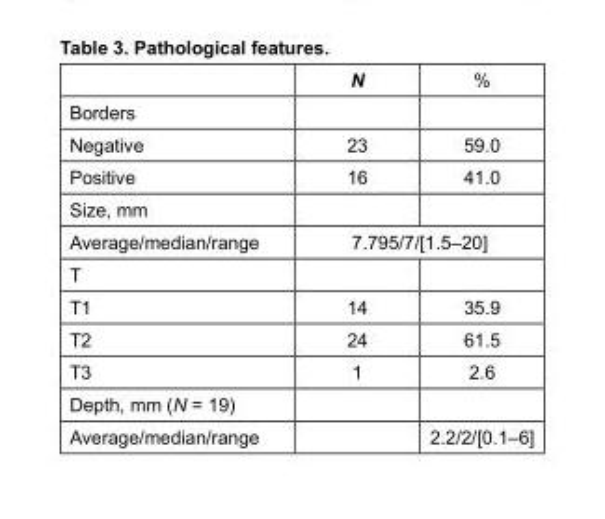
<table><thead><tr><td></td><td>N</td><td>%</td></tr></thead><tbody><tr><td colspan="3">Borders</td></tr><tr><td>Negative</td><td>23</td><td>59.0</td></tr><tr><td>Positive</td><td>16</td><td>41.0</td></tr><tr><td colspan="3">Size, mm</td></tr><tr><td>Average/median/range</td><td colspan="2">7.795/7/[1.5–20]</td></tr><tr><td colspan="3">T</td></tr><tr><td>T1</td><td>14</td><td>35.9</td></tr><tr><td>T2</td><td>24</td><td>61.5</td></tr><tr><td>T3</td><td>1</td><td>2.6</td></tr><tr><td colspan="3">Depth, mm (N = 19)</td></tr><tr><td>Average/median/range</td><td></td><td>2.2/2/[0.1–6]</td></tr></tbody></table>